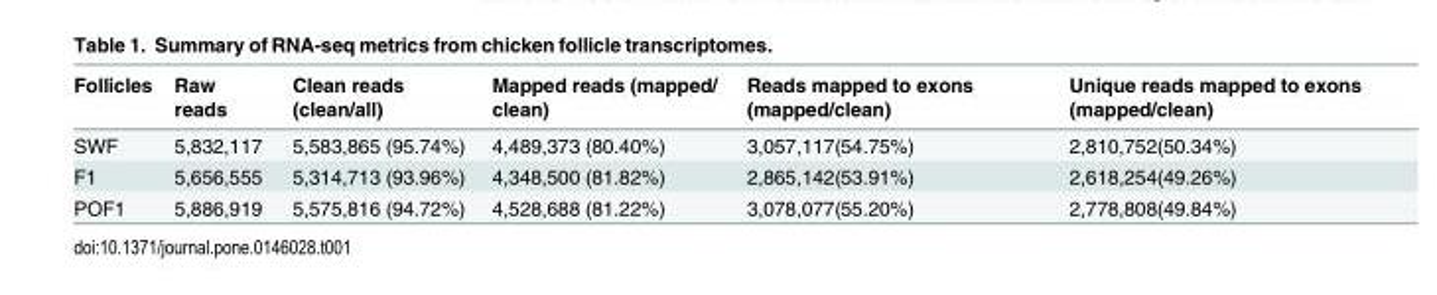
<table><thead><tr><td>Follicles</td><td>Raw reads</td><td>Clean reads (clean/all)</td><td>Mapped reads (mapped/ clean)</td><td>Reads mapped to exons (mapped/clean)</td><td>Unique reads mapped to exons (mapped/clean)</td></tr></thead><tbody><tr><td>SWF</td><td>5,832,117</td><td>5,583,865 (95.74%)</td><td>4,489,373 (80.40%)</td><td>3,057,117(54.75%)</td><td>2,810,752(50.34%)</td></tr><tr><td>F1</td><td>5,656,555</td><td>5,314,713 (93.96%)</td><td>4,348,500 (81.82%)</td><td>2,865,142(53.91%)</td><td>2,618,254(49.26%)</td></tr><tr><td>POF1</td><td>5,886,919</td><td>5,575,816 (94.72%)</td><td>4,528,688 (81.22%)</td><td>3,078,077(55.20%)</td><td>2,778,808(49.84%)</td></tr></tbody></table>